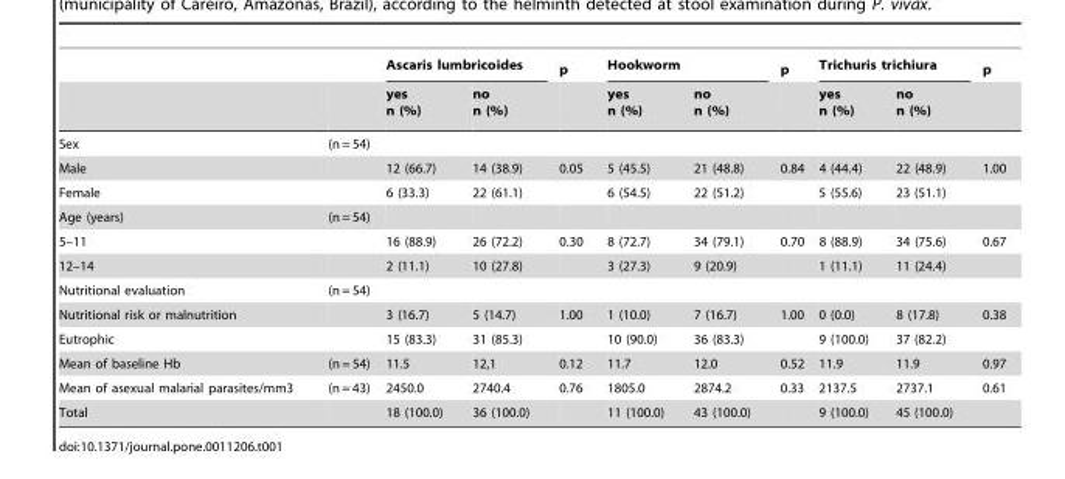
<table><thead><tr><td rowspan="2"></td><td rowspan="2"></td><td colspan="2">Ascaris lumbricoides</td><td rowspan="2">p</td><td colspan="2">Hookworm</td><td rowspan="2">p</td><td colspan="2">Trichuris trichiura</td><td rowspan="2">p</td></tr><tr><td>yes n (%)</td><td>no n (%)</td><td>yes n (%)</td><td>no n (%)</td><td>yes n (%)</td><td>no n (%)</td></tr></thead><tbody><tr><td>Sex</td><td>(n = 54)</td><td></td><td></td><td></td><td></td><td></td><td></td><td></td><td></td><td></td></tr><tr><td>Male</td><td></td><td>12 (66.7)</td><td>14 (38.9)</td><td>0.05</td><td>5 (45.5)</td><td>21 (48.8)</td><td>0.84</td><td>4 (44.4)</td><td>22 (48.9)</td><td>1.00</td></tr><tr><td>Female</td><td></td><td>6 (33.3)</td><td>22 (61.1)</td><td></td><td>6 (54.5)</td><td>22 (51.2)</td><td></td><td>5 (55.6)</td><td>23 (51.1)</td><td></td></tr><tr><td>Age (years)</td><td>(n = 54)</td><td></td><td></td><td></td><td></td><td></td><td></td><td></td><td></td><td></td></tr><tr><td>5–11</td><td></td><td>16 (88.9)</td><td>26 (72.2)</td><td>0.30</td><td>8 (72.7)</td><td>34 (79.1)</td><td>0.70</td><td>8 (88.9)</td><td>34 (75.6)</td><td>0.67</td></tr><tr><td>12–14</td><td></td><td>2 (11.1)</td><td>10 (27.8)</td><td></td><td>3 (27.3)</td><td>9 (20.9)</td><td></td><td>1 (11.1)</td><td>11 (24.4)</td><td></td></tr><tr><td>Nutritional evaluation</td><td>(n = 54)</td><td></td><td></td><td></td><td></td><td></td><td></td><td></td><td></td><td></td></tr><tr><td>Nutritional risk or malnutrition</td><td></td><td>3 (16.7)</td><td>5 (14.7)</td><td>1.00</td><td>1 (10.0)</td><td>7 (16.7)</td><td>1.00</td><td>0 (0.0)</td><td>8 (17.8)</td><td>0.38</td></tr><tr><td>Eutrophic</td><td></td><td>15 (83.3)</td><td>31 (85.3)</td><td></td><td>10 (90.0)</td><td>36 (83.3)</td><td></td><td>9 (100.0)</td><td>37 (82.2)</td><td></td></tr><tr><td>Mean of baseline Hb</td><td>(n = 54)</td><td>11.5</td><td>12,1</td><td>0.12</td><td>11.7</td><td>12.0</td><td>0.52</td><td>11.9</td><td>11.9</td><td>0.97</td></tr><tr><td>Mean of asexual malarial parasites/mm3</td><td>(n = 43)</td><td>2450.0</td><td>2740.4</td><td>0.76</td><td>1805.0</td><td>2874.2</td><td>0.33</td><td>2137.5</td><td>2737.1</td><td>0.61</td></tr><tr><td>Total</td><td></td><td>18 (100.0)</td><td>36 (100.0)</td><td></td><td>11 (100.0)</td><td>43 (100.0)</td><td></td><td>9 (100.0)</td><td>45 (100.0)</td><td></td></tr></tbody></table>